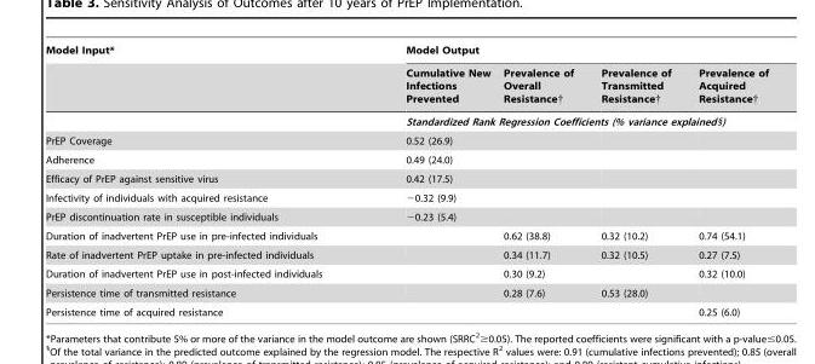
<table><thead><tr><td rowspan="2">Model Input*</td><td colspan="4">Model Output</td></tr><tr><td>Cumulative New Infections Prevented</td><td>Prevalence of Overall Resistance†</td><td>Prevalence of Transmitted Resistance†</td><td>Prevalence of Acquired Resistance†</td></tr></thead><tbody><tr><td></td><td colspan="4">Standardized Rank Regression Coefficients (% variance explained§)</td></tr><tr><td>PrEP Coverage</td><td>0.52 (26.9)</td><td></td><td></td><td></td></tr><tr><td>Adherence</td><td>0.49 (24.0)</td><td></td><td></td><td></td></tr><tr><td>Efficacy of PrEP against sensitive virus</td><td>0.42 (17.5)</td><td></td><td></td><td></td></tr><tr><td>Infectivity of individuals with acquired resistance</td><td>−0.32 (9.9)</td><td></td><td></td><td></td></tr><tr><td>PrEP discontinuation rate in susceptible individuals</td><td>−0.23 (5.4)</td><td></td><td></td><td></td></tr><tr><td>Duration of inadvertent PrEP use in pre-infected individuals</td><td></td><td>0.62 (38.8)</td><td>0.32 (10.2)</td><td>0.74 (54.1)</td></tr><tr><td>Rate of inadvertent PrEP uptake in pre-infected individuals</td><td></td><td>0.34 (11.7)</td><td>0.32 (10.5)</td><td>0.27 (7.5)</td></tr><tr><td>Duration of inadvertent PrEP use in post-infected individuals</td><td></td><td>0.30 (9.2)</td><td></td><td>0.32 (10.0)</td></tr><tr><td>Persistence time of transmitted resistance</td><td></td><td>0.28 (7.6)</td><td>0.53 (28.0)</td><td></td></tr><tr><td>Persistence time of acquired resistance</td><td></td><td></td><td></td><td>0.25 (6.0)</td></tr></tbody></table>